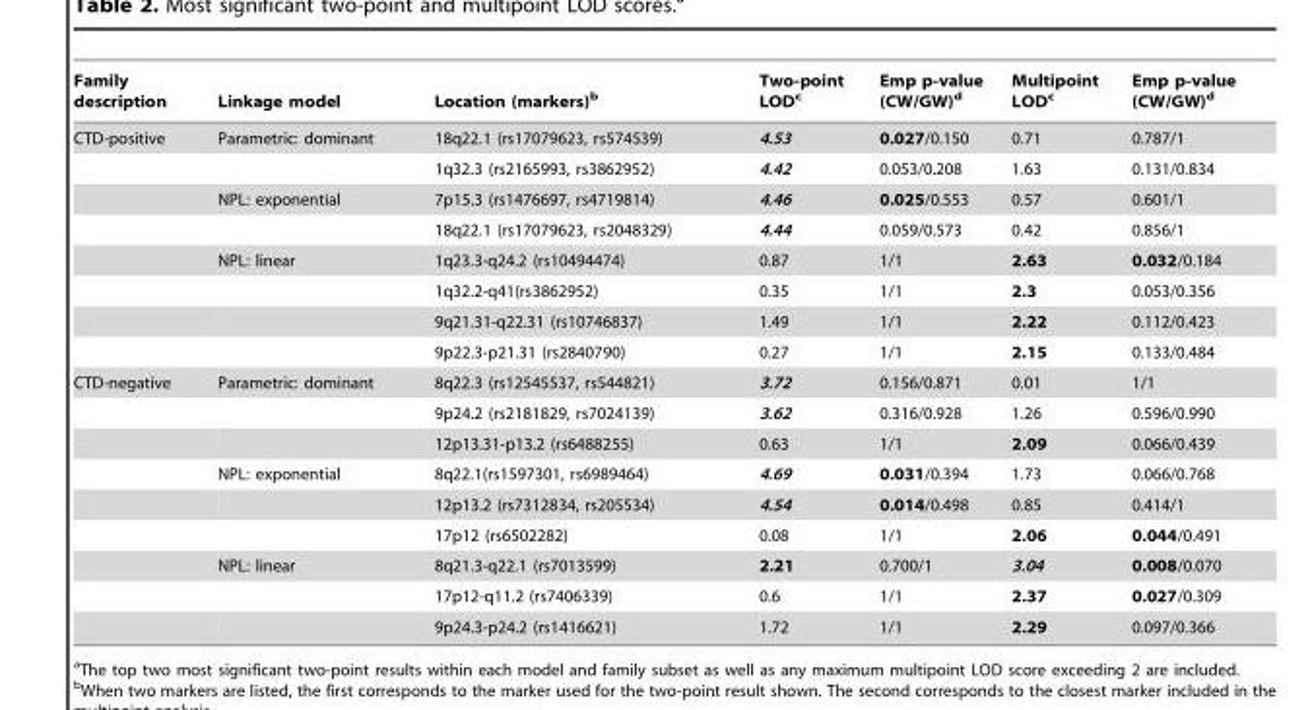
<table><thead><tr><td>Family description</td><td>Linkage model</td><td>Location (markers)<sup>b</sup></td><td>Two-point LOD<sup>c</sup></td><td>Emp p-value (CW/GW)<sup>d</sup></td><td>Multipoint LOD<sup>c</sup></td><td>Emp p-value (CW/GW)<sup>d</sup></td></tr></thead><tbody><tr><td rowspan="8">CTD-positive</td><td>Parametric: dominant</td><td>18q22.1 (rs17079623, rs574539)</td><td>4.53</td><td>0.027/0.150</td><td>0.71</td><td>0.787/1</td></tr><tr><td></td><td>1q32.3 (rs2165993, rs3862952)</td><td>4.42</td><td>0.053/0.208</td><td>1.63</td><td>0.131/0.834</td></tr><tr><td>NPL: exponential</td><td>7p15.3 (rs1476697, rs4719814)</td><td>4.46</td><td>0.025/0.553</td><td>0.57</td><td>0.601/1</td></tr><tr><td></td><td>18q22.1 (rs17079623, rs2048329)</td><td>4.44</td><td>0.059/0.573</td><td>0.42</td><td>0.856/1</td></tr><tr><td>NPL: linear</td><td>1q23.3-q24.2 (rs10494474)</td><td>0.87</td><td>1/1</td><td>2.63</td><td>0.032/0.184</td></tr><tr><td></td><td>1q32.2-q41(rs3862952)</td><td>0.35</td><td>1/1</td><td>2.3</td><td>0.053/0.356</td></tr><tr><td></td><td>9q21.31-q22.31 (rs10746837)</td><td>1.49</td><td>1/1</td><td>2.22</td><td>0.112/0.423</td></tr><tr><td></td><td>9p22.3-p21.31 (rs2840790)</td><td>0.27</td><td>1/1</td><td>2.15</td><td>0.133/0.484</td></tr><tr><td rowspan="9">CTD-negative</td><td>Parametric: dominant</td><td>8q22.3 (rs12545537, rs544821)</td><td>3.72</td><td>0.156/0.871</td><td>0.01</td><td>1/1</td></tr><tr><td></td><td>9p24.2 (rs2181829, rs7024139)</td><td>3.62</td><td>0.316/0.928</td><td>1.26</td><td>0.596/0.990</td></tr><tr><td></td><td>12p13.31-p13.2 (rs6488255)</td><td>0.63</td><td>1/1</td><td>2.09</td><td>0.066/0.439</td></tr><tr><td>NPL: exponential</td><td>8q22.1(rs1597301, rs6989464)</td><td>4.69</td><td>0.031/0.394</td><td>1.73</td><td>0.066/0.768</td></tr><tr><td></td><td>12p13.2 (rs7312834, rs205534)</td><td>4.54</td><td>0.014/0.498</td><td>0.85</td><td>0.414/1</td></tr><tr><td></td><td>17p12 (rs6502282)</td><td>0.08</td><td>1/1</td><td>2.06</td><td>0.044/0.491</td></tr><tr><td>NPL: linear</td><td>8q21.3-q22.1 (rs7013599)</td><td>2.21</td><td>0.700/1</td><td>3.04</td><td>0.008/0.070</td></tr><tr><td></td><td>17p12-q11.2 (rs7406339)</td><td>0.6</td><td>1/1</td><td>2.37</td><td>0.027/0.309</td></tr><tr><td></td><td>9p24.3-p24.2 (rs1416621)</td><td>1.72</td><td>1/1</td><td>2.29</td><td>0.097/0.366</td></tr></tbody></table>